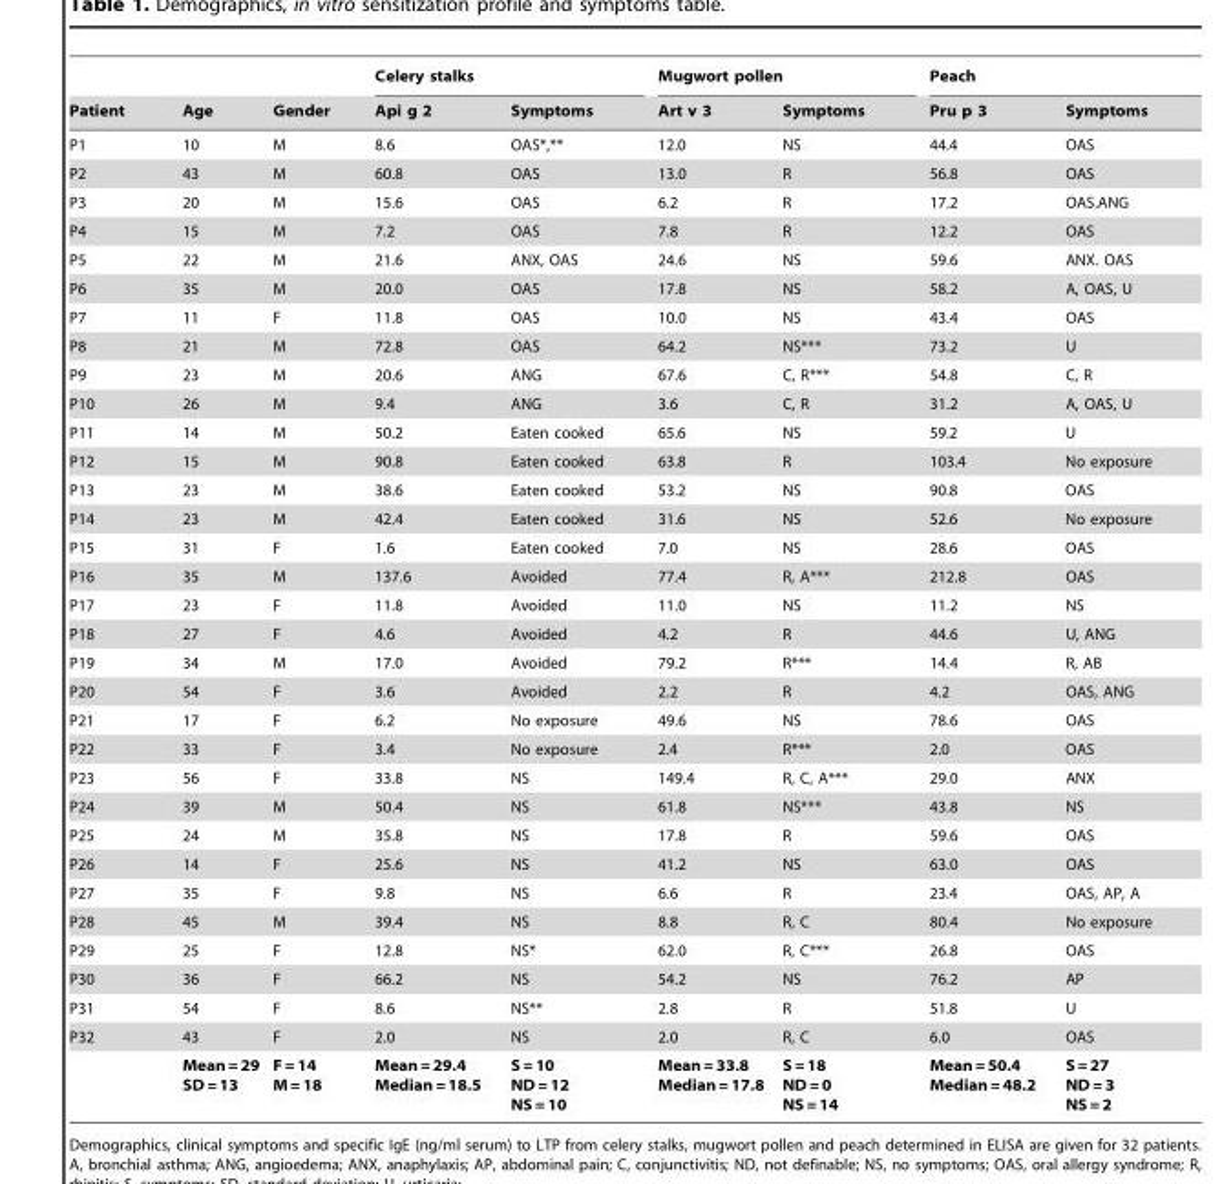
<table><thead><tr><td rowspan="2">Patient</td><td rowspan="2">Age</td><td rowspan="2">Gender</td><td colspan="2">Celery stalks</td><td colspan="2">Mugwort pollen</td><td colspan="2">Peach</td></tr><tr><td>Api g 2</td><td>Symptoms</td><td>Art v 3</td><td>Symptoms</td><td>Pru p 3</td><td>Symptoms</td></tr></thead><tbody><tr><td>P1</td><td>10</td><td>M</td><td>8.6</td><td>OAS*,**</td><td>12.0</td><td>NS</td><td>44.4</td><td>OAS</td></tr><tr><td>P2</td><td>43</td><td>M</td><td>60.8</td><td>OAS</td><td>13.0</td><td>R</td><td>56.8</td><td>OAS</td></tr><tr><td>P3</td><td>20</td><td>M</td><td>15.6</td><td>OAS</td><td>6.2</td><td>R</td><td>17.2</td><td>OAS.ANG</td></tr><tr><td>P4</td><td>15</td><td>M</td><td>7.2</td><td>OAS</td><td>7.8</td><td>R</td><td>12.2</td><td>OAS</td></tr><tr><td>P5</td><td>22</td><td>M</td><td>21.6</td><td>ANX, OAS</td><td>24.6</td><td>NS</td><td>59.6</td><td>ANX. OAS</td></tr><tr><td>P6</td><td>35</td><td>M</td><td>20.0</td><td>OAS</td><td>17.8</td><td>NS</td><td>58.2</td><td>A, OAS, U</td></tr><tr><td>P7</td><td>11</td><td>F</td><td>11.8</td><td>OAS</td><td>10.0</td><td>NS</td><td>43.4</td><td>OAS</td></tr><tr><td>P8</td><td>21</td><td>M</td><td>72.8</td><td>OAS</td><td>64.2</td><td>NS***</td><td>73.2</td><td>U</td></tr><tr><td>P9</td><td>23</td><td>M</td><td>20.6</td><td>ANG</td><td>67.6</td><td>C, R***</td><td>54.8</td><td>C, R</td></tr><tr><td>P10</td><td>26</td><td>M</td><td>9.4</td><td>ANG</td><td>3.6</td><td>C, R</td><td>31.2</td><td>A, OAS, U</td></tr><tr><td>P11</td><td>14</td><td>M</td><td>50.2</td><td>Eaten cooked</td><td>65.6</td><td>NS</td><td>59.2</td><td>U</td></tr><tr><td>P12</td><td>15</td><td>M</td><td>90.8</td><td>Eaten cooked</td><td>63.8</td><td>R</td><td>103.4</td><td>No exposure</td></tr><tr><td>P13</td><td>23</td><td>M</td><td>38.6</td><td>Eaten cooked</td><td>53.2</td><td>NS</td><td>90.8</td><td>OAS</td></tr><tr><td>P14</td><td>23</td><td>M</td><td>42.4</td><td>Eaten cooked</td><td>31.6</td><td>NS</td><td>52.6</td><td>No exposure</td></tr><tr><td>P15</td><td>31</td><td>F</td><td>1.6</td><td>Eaten cooked</td><td>7.0</td><td>NS</td><td>28.6</td><td>OAS</td></tr><tr><td>P16</td><td>35</td><td>M</td><td>137.6</td><td>Avoided</td><td>77.4</td><td>R, A***</td><td>212.8</td><td>OAS</td></tr><tr><td>P17</td><td>23</td><td>F</td><td>11.8</td><td>Avoided</td><td>11.0</td><td>NS</td><td>11.2</td><td>NS</td></tr><tr><td>P18</td><td>27</td><td>F</td><td>4.6</td><td>Avoided</td><td>4.2</td><td>R</td><td>44.6</td><td>U, ANG</td></tr><tr><td>P19</td><td>34</td><td>M</td><td>17.0</td><td>Avoided</td><td>79.2</td><td>R***</td><td>14.4</td><td>R, AB</td></tr><tr><td>P20</td><td>54</td><td>F</td><td>3.6</td><td>Avoided</td><td>2.2</td><td>R</td><td>4.2</td><td>OAS, ANG</td></tr><tr><td>P21</td><td>17</td><td>F</td><td>6.2</td><td>No exposure</td><td>49.6</td><td>NS</td><td>78.6</td><td>OAS</td></tr><tr><td>P22</td><td>33</td><td>F</td><td>3.4</td><td>No exposure</td><td>2.4</td><td>R***</td><td>2.0</td><td>OAS</td></tr><tr><td>P23</td><td>56</td><td>F</td><td>33.8</td><td>NS</td><td>149.4</td><td>R, C, A***</td><td>29.0</td><td>ANX</td></tr><tr><td>P24</td><td>39</td><td>M</td><td>50.4</td><td>NS</td><td>61.8</td><td>NS***</td><td>43.8</td><td>NS</td></tr><tr><td>P25</td><td>24</td><td>M</td><td>35.8</td><td>NS</td><td>17.8</td><td>R</td><td>59.6</td><td>OAS</td></tr><tr><td>P26</td><td>14</td><td>F</td><td>25.6</td><td>NS</td><td>41.2</td><td>NS</td><td>63.0</td><td>OAS</td></tr><tr><td>P27</td><td>35</td><td>F</td><td>9.8</td><td>NS</td><td>6.6</td><td>R</td><td>23.4</td><td>OAS, AP, A</td></tr><tr><td>P28</td><td>45</td><td>M</td><td>39.4</td><td>NS</td><td>8.8</td><td>R, C</td><td>80.4</td><td>No exposure</td></tr><tr><td>P29</td><td>25</td><td>F</td><td>12.8</td><td>NS*</td><td>62.0</td><td>R, C***</td><td>26.8</td><td>OAS</td></tr><tr><td>P30</td><td>36</td><td>F</td><td>66.2</td><td>NS</td><td>54.2</td><td>NS</td><td>76.2</td><td>AP</td></tr><tr><td>P31</td><td>54</td><td>F</td><td>8.6</td><td>NS**</td><td>2.8</td><td>R</td><td>51.8</td><td>U</td></tr><tr><td rowspan="2">P32</td><td>43</td><td>F</td><td>2.0</td><td>NS</td><td>2.0</td><td>R, C</td><td>6.0</td><td>OAS</td></tr><tr><td>Mean = 29 SD = 13</td><td>F = 14 M = 18</td><td>Mean = 29.4 Median = 18.5</td><td>S = 10 ND = 12 NS = 10</td><td>Mean = 33.8 Median = 17.8</td><td>S = 18 ND = 0 NS = 14</td><td>Mean = 50.4 Median = 48.2</td><td>S = 27 ND = 3 NS = 2</td></tr></tbody></table>